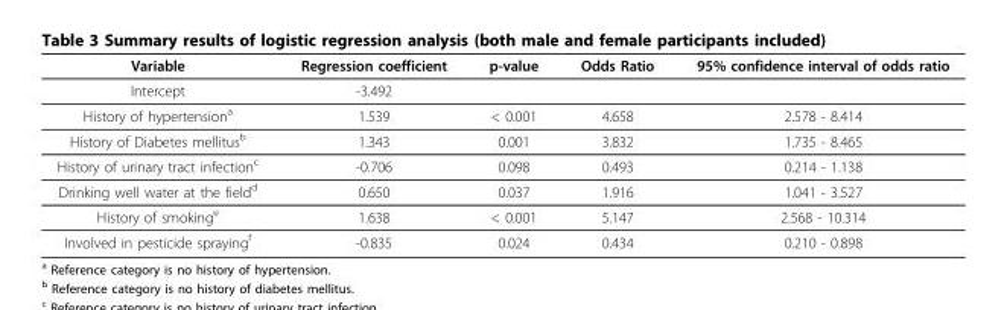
<table><thead><tr><td>Variable</td><td>Regression coefficient</td><td>p-value</td><td>Odds Ratio</td><td>95% confidence interval of odds ratio</td></tr></thead><tbody><tr><td>Intercept</td><td>-3.492</td><td></td><td></td><td></td></tr><tr><td>History of hypertension<sup>a</sup></td><td>1.539</td><td>&lt; 0.001</td><td>4.658</td><td>2.578 - 8.414</td></tr><tr><td>History of Diabetes mellitus<sup>b</sup></td><td>1.343</td><td>0.001</td><td>3.832</td><td>1.735 - 8.465</td></tr><tr><td>History of urinary tract infection<sup>c</sup></td><td>-0.706</td><td>0.098</td><td>0.493</td><td>0.214 - 1.138</td></tr><tr><td>Drinking well water at the field<sup>d</sup></td><td>0.650</td><td>0.037</td><td>1.916</td><td>1.041 - 3.527</td></tr><tr><td>History of smoking<sup>e</sup></td><td>1.638</td><td>&lt; 0.001</td><td>5.147</td><td>2.568 - 10.314</td></tr><tr><td>Involved in pesticide spraying<sup>f</sup></td><td>-0.835</td><td>0.024</td><td>0.434</td><td>0.210 - 0.898</td></tr></tbody></table>